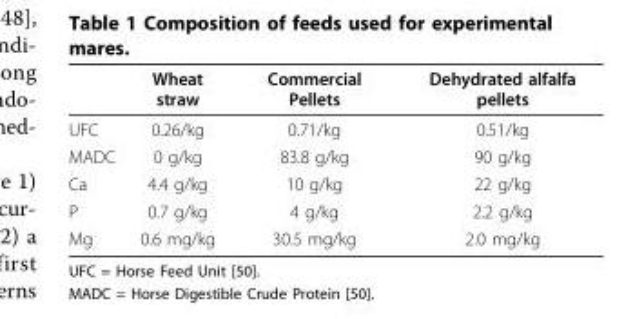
<table><thead><tr><td></td><td>Wheat straw</td><td>Commercial Pellets</td><td>Dehydrated alfalfa pellets</td></tr></thead><tbody><tr><td>UFC</td><td>0.26/kg</td><td>0.71/kg</td><td>0.51/kg</td></tr><tr><td>MADC</td><td>0 g/kg</td><td>83.8 g/kg</td><td>90 g/kg</td></tr><tr><td>Ca</td><td>4.4 g/kg</td><td>10 g/kg</td><td>22 g/kg</td></tr><tr><td>P</td><td>0.7 g/kg</td><td>4 g/kg</td><td>2.2 g/kg</td></tr><tr><td>Mg</td><td>0.6 mg/kg</td><td>30.5 mg/kg</td><td>2.0 mg/kg</td></tr></tbody></table>